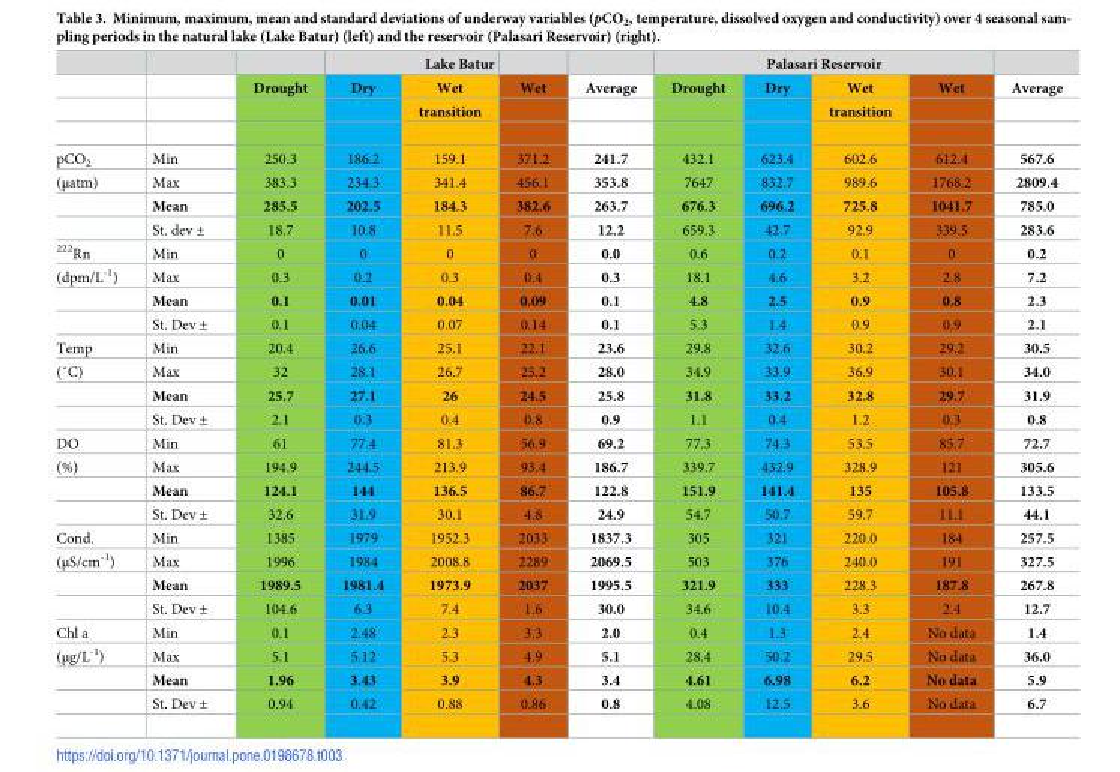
<table><thead><tr><td rowspan="3"></td><td rowspan="3"></td><td rowspan="3">Drought</td><td colspan="2">Lake Batur</td><td rowspan="3">Wet</td><td rowspan="3">Average</td><td colspan="4">Palasari Reservoir</td><td rowspan="3">Average</td></tr><tr><td rowspan="2">Dry</td><td rowspan="2">Wet transition</td><td rowspan="2">Drought</td><td rowspan="2">Dry</td><td rowspan="2">Wet transition</td><td rowspan="2">Wet</td></tr><tr></tr></thead><tbody><tr><td>pCO<sub>2</sub></td><td>Min</td><td>250.3</td><td>186.2</td><td>159.1</td><td>371.2</td><td>241.7</td><td>432.1</td><td>623.4</td><td>602.6</td><td>612.4</td><td>567.6</td></tr><tr><td rowspan="3">(μatm)</td><td>Max</td><td>383.3</td><td>234.3</td><td>341.4</td><td>456.1</td><td>353.8</td><td>7647</td><td>832.7</td><td>989.6</td><td>1768.2</td><td>2809.4</td></tr><tr><td>Mean</td><td>285.5</td><td>202.5</td><td>184.3</td><td>382.6</td><td>263.7</td><td>676.3</td><td>696.2</td><td>725.8</td><td>1041.7</td><td>785.0</td></tr><tr><td>St. dev ±</td><td>18.7</td><td>10.8</td><td>11.5</td><td>7.6</td><td>12.2</td><td>659.3</td><td>42.7</td><td>92.9</td><td>339.5</td><td>283.6</td></tr><tr><td><sup>222</sup>Rn</td><td>Min</td><td>0</td><td>0</td><td>0</td><td>0</td><td>0.0</td><td>0.6</td><td>0.2</td><td>0.1</td><td>0</td><td>0.2</td></tr><tr><td rowspan="3">(dpm/L<sup>-1</sup>)</td><td>Max</td><td>0.3</td><td>0.2</td><td>0.3</td><td>0.4</td><td>0.3</td><td>18.1</td><td>4.6</td><td>3.2</td><td>2.8</td><td>7.2</td></tr><tr><td>Mean</td><td>0.1</td><td>0.01</td><td>0.04</td><td>0.09</td><td>0.1</td><td>4.8</td><td>2.5</td><td>0.9</td><td>0.8</td><td>2.3</td></tr><tr><td>St. Dev ±</td><td>0.1</td><td>0.04</td><td>0.07</td><td>0.14</td><td>0.1</td><td>5.3</td><td>1.4</td><td>0.9</td><td>0.9</td><td>2.1</td></tr><tr><td>Temp</td><td>Min</td><td>20.4</td><td>26.6</td><td>25.1</td><td>22.1</td><td>23.6</td><td>29.8</td><td>32.6</td><td>30.2</td><td>29.2</td><td>30.5</td></tr><tr><td rowspan="3">(˚C)</td><td>Max</td><td>32</td><td>28.1</td><td>26.7</td><td>25.2</td><td>28.0</td><td>34.9</td><td>33.9</td><td>36.9</td><td>30.1</td><td>34.0</td></tr><tr><td>Mean</td><td>25.7</td><td>27.1</td><td>26</td><td>24.5</td><td>25.8</td><td>31.8</td><td>33.2</td><td>32.8</td><td>29.7</td><td>31.9</td></tr><tr><td>St. Dev ±</td><td>2.1</td><td>0.3</td><td>0.4</td><td>0.8</td><td>0.9</td><td>1.1</td><td>0.4</td><td>1.2</td><td>0.3</td><td>0.8</td></tr><tr><td>DO</td><td>Min</td><td>61</td><td>77.4</td><td>81.3</td><td>56.9</td><td>69.2</td><td>77.3</td><td>74.3</td><td>53.5</td><td>85.7</td><td>72.7</td></tr><tr><td rowspan="3">(%)</td><td>Max</td><td>194.9</td><td>244.5</td><td>213.9</td><td>93.4</td><td>186.7</td><td>339.7</td><td>432.9</td><td>328.9</td><td>121</td><td>305.6</td></tr><tr><td>Mean</td><td>124.1</td><td>144</td><td>136.5</td><td>86.7</td><td>122.8</td><td>151.9</td><td>141.4</td><td>135</td><td>105.8</td><td>133.5</td></tr><tr><td>St. Dev ±</td><td>32.6</td><td>31.9</td><td>30.1</td><td>4.8</td><td>24.9</td><td>54.7</td><td>50.7</td><td>59.7</td><td>11.1</td><td>44.1</td></tr><tr><td>Cond.</td><td>Min</td><td>1385</td><td>1979</td><td>1952.3</td><td>2033</td><td>1837.3</td><td>305</td><td>321</td><td>220.0</td><td>184</td><td>257.5</td></tr><tr><td rowspan="3">(μS/cm<sup>-1</sup>)</td><td>Max</td><td>1996</td><td>1984</td><td>2008.8</td><td>2289</td><td>2069.5</td><td>503</td><td>376</td><td>240.0</td><td>191</td><td>327.5</td></tr><tr><td>Mean</td><td>1989.5</td><td>1981.4</td><td>1973.9</td><td>2037</td><td>1995.5</td><td>321.9</td><td>333</td><td>228.3</td><td>187.8</td><td>267.8</td></tr><tr><td>St. Dev ±</td><td>104.6</td><td>6.3</td><td>7.4</td><td>1.6</td><td>30.0</td><td>34.6</td><td>10.4</td><td>3.3</td><td>2.4</td><td>12.7</td></tr><tr><td>Chl a</td><td>Min</td><td>0.1</td><td>2.48</td><td>2.3</td><td>3.3</td><td>2.0</td><td>0.4</td><td>1.3</td><td>2.4</td><td>No data</td><td>1.4</td></tr><tr><td rowspan="3">(μg/L<sup>-1</sup>)</td><td>Max</td><td>5.1</td><td>5.12</td><td>5.3</td><td>4.9</td><td>5.1</td><td>28.4</td><td>50.2</td><td>29.5</td><td>No data</td><td>36.0</td></tr><tr><td>Mean</td><td>1.96</td><td>3.43</td><td>3.9</td><td>4.3</td><td>3.4</td><td>4.61</td><td>6.98</td><td>6.2</td><td>No data</td><td>5.9</td></tr><tr><td>St. Dev ±</td><td>0.94</td><td>0.42</td><td>0.88</td><td>0.86</td><td>0.8</td><td>4.08</td><td>12.5</td><td>3.6</td><td>No data</td><td>6.7</td></tr></tbody></table>